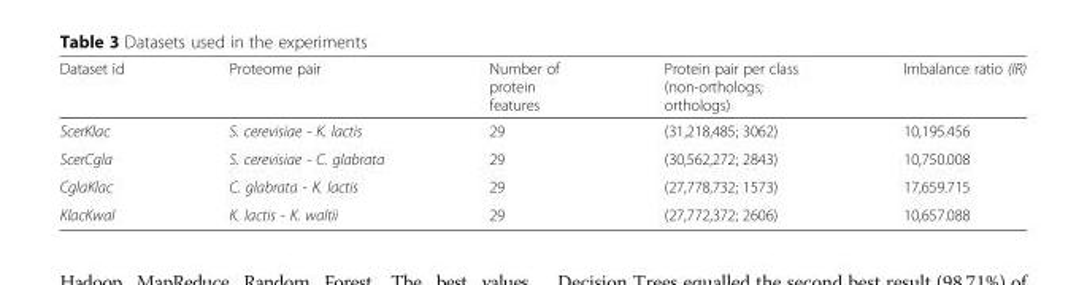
<table><thead><tr><td>Dataset id</td><td>Proteome pair</td><td>Number of protein features</td><td>Protein pair per class (non-orthologs; orthologs)</td><td>Imbalance ratio (IR)</td></tr></thead><tbody><tr><td>ScerKlac</td><td>S. cerevisiae - K. lactis</td><td>29</td><td>(31,218,485; 3062)</td><td>10,195.456</td></tr><tr><td>ScerCgla</td><td>S. cerevisiae - C. glabrata</td><td>29</td><td>(30,562,272; 2843)</td><td>10,750.008</td></tr><tr><td>CglaKlac</td><td>C. glabrata - K. lactis</td><td>29</td><td>(27,778,732; 1573)</td><td>17,659.715</td></tr><tr><td>KlacKwal</td><td>K. lactis - K. waltii</td><td>29</td><td>(27,772,372; 2606)</td><td>10,657.088</td></tr></tbody></table>